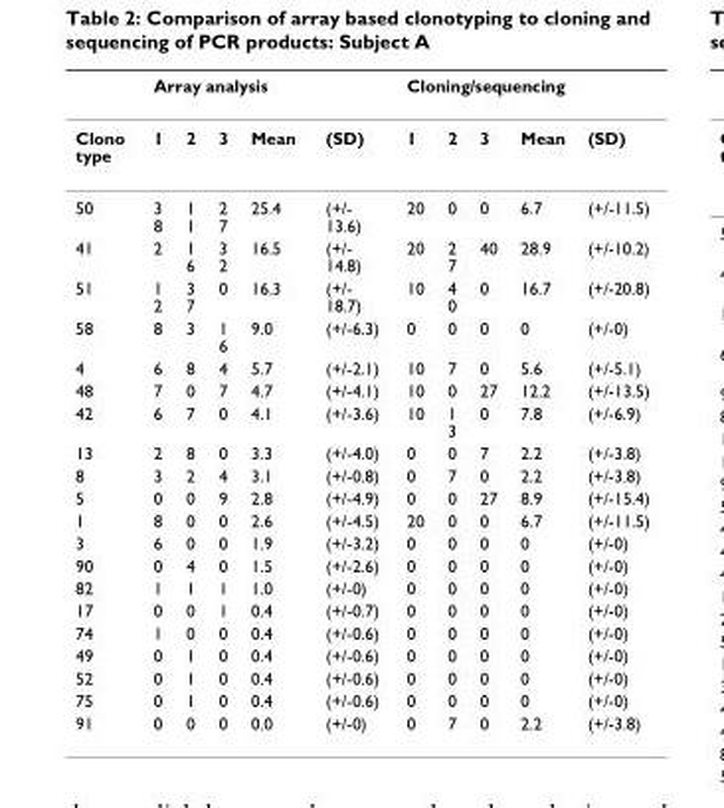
<table><thead><tr><td rowspan="2">Clono type</td><td colspan="5">Array analysis</td><td colspan="5">Cloning/sequencing</td></tr><tr><td>1</td><td>2</td><td>3</td><td>Mean</td><td>(SD)</td><td>1</td><td>2</td><td>3</td><td>Mean</td><td>(SD)</td></tr></thead><tbody><tr><td>50</td><td>3 8</td><td>1 1</td><td>2 7</td><td>25.4</td><td>(+/- 13.6)</td><td>20</td><td>0</td><td>0</td><td>6.7</td><td>(+/-11.5)</td></tr><tr><td>41</td><td>2</td><td>1 6</td><td>3 2</td><td>16.5</td><td>(+/- 14.8)</td><td>20</td><td>2 7</td><td>40</td><td>28.9</td><td>(+/-10.2)</td></tr><tr><td>51</td><td>1 2</td><td>3 7</td><td>0</td><td>16.3</td><td>(+/- 18.7)</td><td>10</td><td>4 0</td><td>0</td><td>16.7</td><td>(+/-20.8)</td></tr><tr><td>58</td><td>8</td><td>3</td><td>1 6</td><td>9.0</td><td>(+/-6.3)</td><td>0</td><td>0</td><td>0</td><td>0</td><td>(+/-0)</td></tr><tr><td>4</td><td>6</td><td>8</td><td>4</td><td>5.7</td><td>(+/-2.1)</td><td>10</td><td>7</td><td>0</td><td>5.6</td><td>(+/-5.1)</td></tr><tr><td>48</td><td>7</td><td>0</td><td>7</td><td>4.7</td><td>(+/-4.1)</td><td>10</td><td>0</td><td>27</td><td>12.2</td><td>(+/-13.5)</td></tr><tr><td>42</td><td>6</td><td>7</td><td>0</td><td>4.1</td><td>(+/-3.6)</td><td>10</td><td>1 3</td><td>0</td><td>7.8</td><td>(+/-6.9)</td></tr><tr><td>13</td><td>2</td><td>8</td><td>0</td><td>3.3</td><td>(+/-4.0)</td><td>0</td><td>0</td><td>7</td><td>2.2</td><td>(+/-3.8)</td></tr><tr><td>8</td><td>3</td><td>2</td><td>4</td><td>3.1</td><td>(+/-0.8)</td><td>0</td><td>7</td><td>0</td><td>2.2</td><td>(+/-3.8)</td></tr><tr><td>5</td><td>0</td><td>0</td><td>9</td><td>2.8</td><td>(+/-4.9)</td><td>0</td><td>0</td><td>27</td><td>8.9</td><td>(+/-15.4)</td></tr><tr><td>1</td><td>8</td><td>0</td><td>0</td><td>2.6</td><td>(+/-4.5)</td><td>20</td><td>0</td><td>0</td><td>6.7</td><td>(+/-11.5)</td></tr><tr><td>3</td><td>6</td><td>0</td><td>0</td><td>1.9</td><td>(+/-3.2)</td><td>0</td><td>0</td><td>0</td><td>0</td><td>(+/-0)</td></tr><tr><td>90</td><td>0</td><td>4</td><td>0</td><td>1.5</td><td>(+/-2.6)</td><td>0</td><td>0</td><td>0</td><td>0</td><td>(+/-0)</td></tr><tr><td>82</td><td>1</td><td>1</td><td>1</td><td>1.0</td><td>(+/-0)</td><td>0</td><td>0</td><td>0</td><td>0</td><td>(+/-0)</td></tr><tr><td>17</td><td>0</td><td>0</td><td>1</td><td>0.4</td><td>(+/-0.7)</td><td>0</td><td>0</td><td>0</td><td>0</td><td>(+/-0)</td></tr><tr><td>74</td><td>1</td><td>0</td><td>0</td><td>0.4</td><td>(+/-0.6)</td><td>0</td><td>0</td><td>0</td><td>0</td><td>(+/-0)</td></tr><tr><td>49</td><td>0</td><td>1</td><td>0</td><td>0.4</td><td>(+/-0.6)</td><td>0</td><td>0</td><td>0</td><td>0</td><td>(+/-0)</td></tr><tr><td>52</td><td>0</td><td>1</td><td>0</td><td>0.4</td><td>(+/-0.6)</td><td>0</td><td>0</td><td>0</td><td>0</td><td>(+/-0)</td></tr><tr><td>75</td><td>0</td><td>1</td><td>0</td><td>0.4</td><td>(+/-0.6)</td><td>0</td><td>0</td><td>0</td><td>0</td><td>(+/-0)</td></tr><tr><td>91</td><td>0</td><td>0</td><td>0</td><td>0.0</td><td>(+/-0)</td><td>0</td><td>7</td><td>0</td><td>2.2</td><td>(+/-3.8)</td></tr></tbody></table>